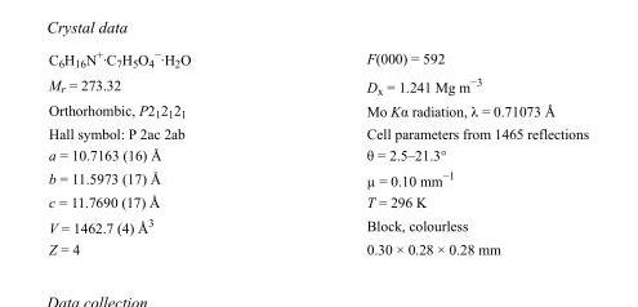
<table><tbody><tr><td>C<sub>6</sub>H<sub>16</sub>N<sup>+</sup>·C<sub>7</sub>H<sub>5</sub>O<sub>4</sub> <sup>−</sup>·H<sub>2</sub>O</td><td>F(000) = 592</td></tr><tr><td>M<sub>r</sub> = 273.32</td><td>D<sub>x</sub> = 1.241 Mg m<sup>−3</sup></td></tr><tr><td>Orthorhombic, P2<sub>1</sub>2<sub>1</sub>2<sub>1</sub></td><td>Mo Kα radiation, λ = 0.71073 Å</td></tr><tr><td>Hall symbol: P 2ac 2ab</td><td>Cell parameters from 1465 reflections</td></tr><tr><td>a = 10.7163 (16) Å</td><td>θ = 2.5–21.3°</td></tr><tr><td>b = 11.5973 (17) Å</td><td>µ = 0.10 mm<sup>−1</sup></td></tr><tr><td>c = 11.7690 (17) Å</td><td>T = 296 K</td></tr><tr><td>V = 1462.7 (4) Å<sup>3</sup></td><td>Block, colourless</td></tr><tr><td>Z = 4</td><td>0.30 × 0.28 × 0.28 mm</td></tr></tbody></table>